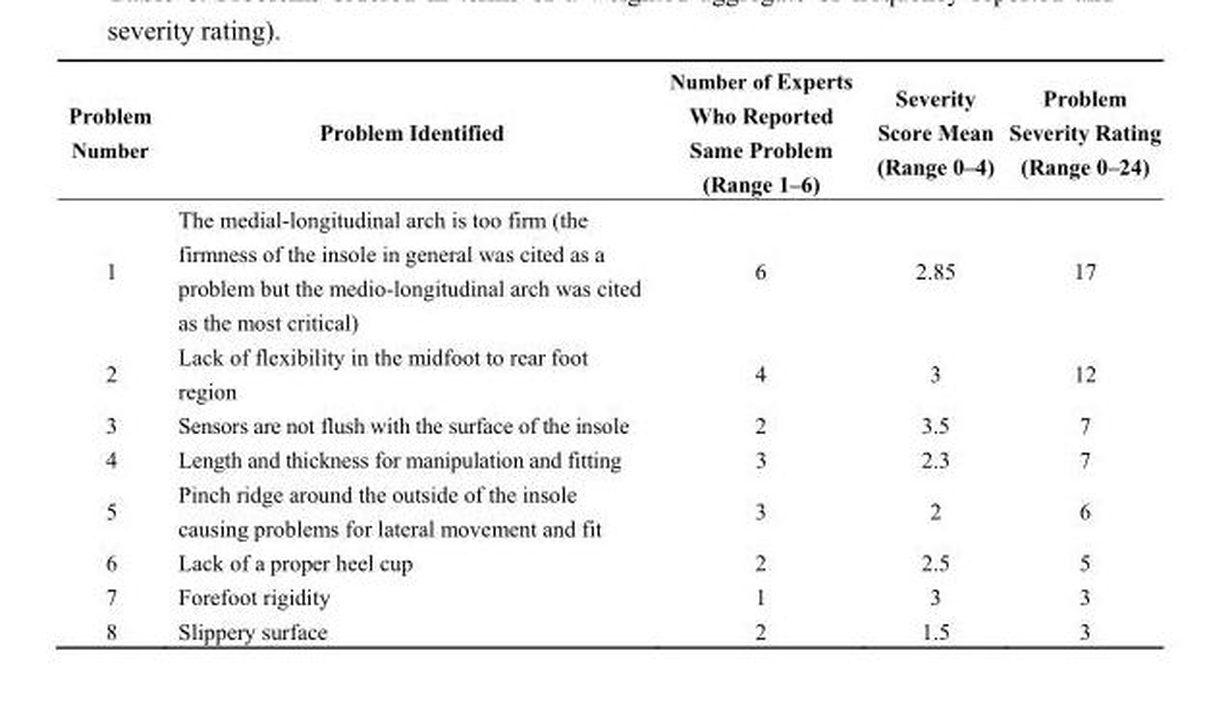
<table><thead><tr><td>Problem Number</td><td>Problem Identified</td><td>Number of Experts Who Reported Same Problem (Range 1–6)</td><td>Severity Score Mean (Range 0–4)</td><td>Problem Severity Rating (Range 0–24)</td></tr></thead><tbody><tr><td>1</td><td>The medial-longitudinal arch is too firm (the firmness of the insole in general was cited as a problem but the medio-longitudinal arch was cited as the most critical)</td><td>6</td><td>2.85</td><td>17</td></tr><tr><td>2</td><td>Lack of flexibility in the midfoot to rear foot region</td><td>4</td><td>3</td><td>12</td></tr><tr><td>3</td><td>Sensors are not flush with the surface of the insole</td><td>2</td><td>3.5</td><td>7</td></tr><tr><td>4</td><td>Length and thickness for manipulation and fitting</td><td>3</td><td>2.3</td><td>7</td></tr><tr><td>5</td><td>Pinch ridge around the outside of the insole causing problems for lateral movement and fit</td><td>3</td><td>2</td><td>6</td></tr><tr><td>6</td><td>Lack of a proper heel cup</td><td>2</td><td>2.5</td><td>5</td></tr><tr><td>7</td><td>Forefoot rigidity</td><td>1</td><td>3</td><td>3</td></tr><tr><td>8</td><td>Slippery surface</td><td>2</td><td>1.5</td><td>3</td></tr></tbody></table>